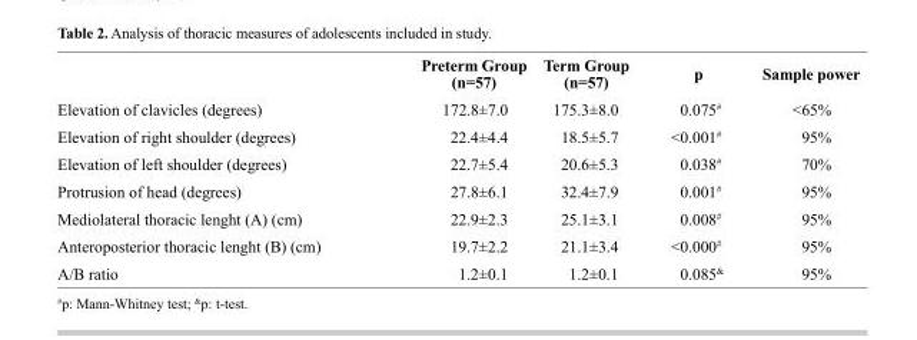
<table><thead><tr><td></td><td>Preterm Group (n=57)</td><td>Term Group (n=57)</td><td>p</td><td>Sample power</td></tr></thead><tbody><tr><td>Elevation of clavicles (degrees)</td><td>172.8±7.0</td><td>175.3±8.0</td><td>0.075<sup>#</sup></td><td>&lt;65%</td></tr><tr><td>Elevation of right shoulder (degrees)</td><td>22.4±4.4</td><td>18.5±5.7</td><td>&lt;0.001<sup>#</sup></td><td>95%</td></tr><tr><td>Elevation of left shoulder (degrees)</td><td>22.7±5.4</td><td>20.6±5.3</td><td>0.038<sup>#</sup></td><td>70%</td></tr><tr><td>Protrusion of head (degrees)</td><td>27.8±6.1</td><td>32.4±7.9</td><td>0.001<sup>#</sup></td><td>95%</td></tr><tr><td>Mediolateral thoracic lenght (A) (cm)</td><td>22.9±2.3</td><td>25.1±3.1</td><td>0.008<sup>#</sup></td><td>95%</td></tr><tr><td>Anteroposterior thoracic lenght (B) (cm)</td><td>19.7±2.2</td><td>21.1±3.4</td><td>&lt;0.000<sup>#</sup></td><td>95%</td></tr><tr><td>A/B ratio</td><td>1.2±0.1</td><td>1.2±0.1</td><td>0.085<sup>&amp;</sup></td><td>95%</td></tr></tbody></table>